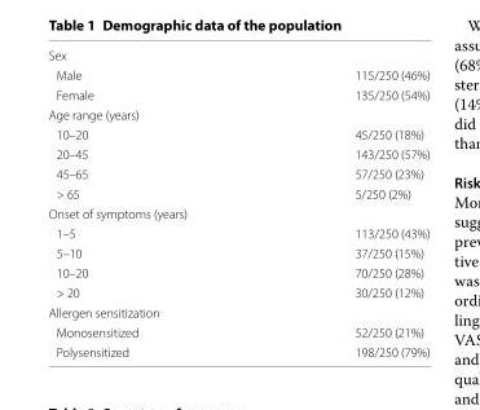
<table><tbody><tr><td colspan="2">Sex</td></tr><tr><td>Male</td><td>115/250 (46%)</td></tr><tr><td>Female</td><td>135/250 (54%)</td></tr><tr><td colspan="2">Age range (years)</td></tr><tr><td>10–20</td><td>45/250 (18%)</td></tr><tr><td>20–45</td><td>143/250 (57%)</td></tr><tr><td>45–65</td><td>57/250 (23%)</td></tr><tr><td>&gt; 65</td><td>5/250 (2%)</td></tr><tr><td colspan="2">Onset of symptoms (years)</td></tr><tr><td>1–5</td><td>113/250 (43%)</td></tr><tr><td>5–10</td><td>37/250 (15%)</td></tr><tr><td>10–20</td><td>70/250 (28%)</td></tr><tr><td>&gt; 20</td><td>30/250 (12%)</td></tr><tr><td colspan="2">Allergen sensitization</td></tr><tr><td>Monosensitized</td><td>52/250 (21%)</td></tr><tr><td>Polysensitized</td><td>198/250 (79%)</td></tr></tbody></table>